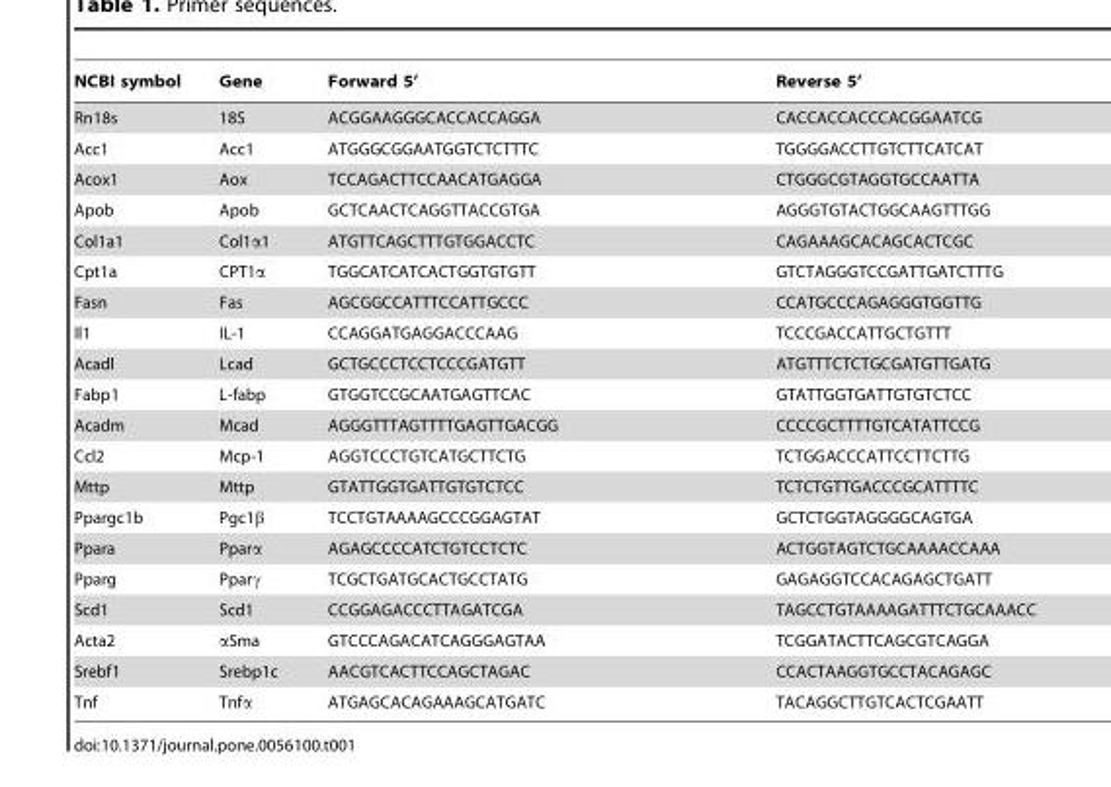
<table><thead><tr><td>NCBI symbol</td><td>Gene</td><td>Forward 5’</td><td>Reverse 5’</td></tr></thead><tbody><tr><td>Rn18s</td><td>18S</td><td>ACGGAAGGGCACCACCAGGA</td><td>CACCACCACCCACGGAATCG</td></tr><tr><td>Acc1</td><td>Acc1</td><td>ATGGGCGGAATGGTCTCTTTC</td><td>TGGGGACCTTGTCTTCATCAT</td></tr><tr><td>Acox1</td><td>Aox</td><td>TCCAGACTTCCAACATGAGGA</td><td>CTGGGCGTAGGTGCCAATTA</td></tr><tr><td>Apob</td><td>Apob</td><td>GCTCAACTCAGGTTACCGTGA</td><td>AGGGTGTACTGGCAAGTTTGG</td></tr><tr><td>Col1a1</td><td>Col1α1</td><td>ATGTTCAGCTTTGTGGACCTC</td><td>CAGAAAGCACAGCACTCGC</td></tr><tr><td>Cpt1a</td><td>CPT1α</td><td>TGGCATCATCACTGGTGTGTT</td><td>GTCTAGGGTCCGATTGATCTTTG</td></tr><tr><td>Fasn</td><td>Fas</td><td>AGCGGCCATTTCCATTGCCC</td><td>CCATGCCCAGAGGGTGGTTG</td></tr><tr><td>Il1</td><td>IL-1</td><td>CCAGGATGAGGACCCAAG</td><td>TCCCGACCATTGCTGTTT</td></tr><tr><td>Acadl</td><td>Lcad</td><td>GCTGCCCTCCTCCCGATGTT</td><td>ATGTTTCTCTGCGATGTTGATG</td></tr><tr><td>Fabp1</td><td>L-fabp</td><td>GTGGTCCGCAATGAGTTCAC</td><td>GTATTGGTGATTGTGTCTCC</td></tr><tr><td>Acadm</td><td>Mcad</td><td>AGGGTTTAGTTTTGAGTTGACGG</td><td>CCCCGCTTTTGTCATATTCCG</td></tr><tr><td>Ccl2</td><td>Mcp-1</td><td>AGGTCCCTGTCATGCTTCTG</td><td>TCTGGACCCATTCCTTCTTG</td></tr><tr><td>Mttp</td><td>Mttp</td><td>GTATTGGTGATTGTGTCTCC</td><td>TCTCTGTTGACCCGCATTTTC</td></tr><tr><td>Ppargc1b</td><td>Pgc1β</td><td>TCCTGTAAAAGCCCGGAGTAT</td><td>GCTCTGGTAGGGGCAGTGA</td></tr><tr><td>Ppara</td><td>Pparα</td><td>AGAGCCCCATCTGTCCTCTC</td><td>ACTGGTAGTCTGCAAAACCAAA</td></tr><tr><td>Pparg</td><td>Pparγ</td><td>TCGCTGATGCACTGCCTATG</td><td>GAGAGGTCCACAGAGCTGATT</td></tr><tr><td>Scd1</td><td>Scd1</td><td>CCGGAGACCCTTAGATCGA</td><td>TAGCCTGTAAAAGATTTCTGCAAACC</td></tr><tr><td>Acta2</td><td>αSma</td><td>GTCCCAGACATCAGGGAGTAA</td><td>TCGGATACTTCAGCGTCAGGA</td></tr><tr><td>Srebf1</td><td>Srebp1c</td><td>AACGTCACTTCCAGCTAGAC</td><td>CCACTAAGGTGCCTACAGAGC</td></tr><tr><td>Tnf</td><td>Tnfα</td><td>ATGAGCACAGAAAGCATGATC</td><td>TACAGGCTTGTCACTCGAATT</td></tr></tbody></table>